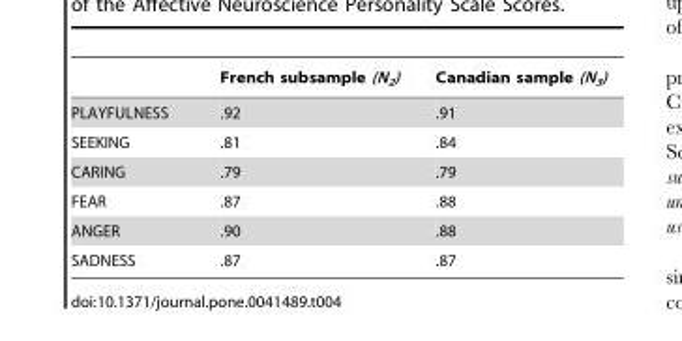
<table><thead><tr><td></td><td>French subsample (N<sub>2</sub>)</td><td>Canadian sample (N<sub>3</sub>)</td></tr></thead><tbody><tr><td>PLAYFULNESS</td><td>.92</td><td>.91</td></tr><tr><td>SEEKING</td><td>.81</td><td>.84</td></tr><tr><td>CARING</td><td>.79</td><td>.79</td></tr><tr><td>FEAR</td><td>.87</td><td>.88</td></tr><tr><td>ANGER</td><td>.90</td><td>.88</td></tr><tr><td>SADNESS</td><td>.87</td><td>.87</td></tr></tbody></table>